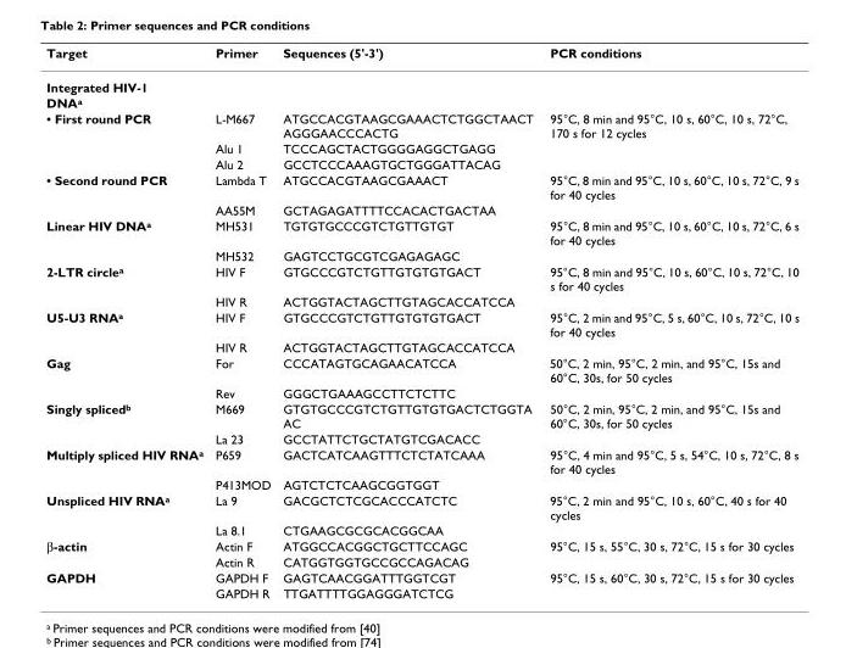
<table><thead><tr><td>Target</td><td>Primer</td><td>Sequences (5&#x27;-3&#x27;)</td><td>PCR conditions</td></tr></thead><tbody><tr><td colspan="4">Integrated HIV-1</td></tr><tr><td colspan="4">DNA<sup>a</sup></td></tr><tr><td rowspan="3">• First round PCR</td><td>L-M667</td><td>ATGCCACGTAAGCGAAACTCTGGCTAACT AGGGAACCCACTG</td><td>95°C, 8 min and 95°C, 10 s, 60°C, 10 s, 72°C, 170 s for 12 cycles</td></tr><tr><td>Alu 1</td><td>TCCCAGCTACTGGGGAGGCTGAGG</td><td></td></tr><tr><td>Alu 2</td><td>GCCTCCCAAAGTGCTGGGATTACAG</td><td></td></tr><tr><td rowspan="2">• Second round PCR</td><td>Lambda T</td><td>ATGCCACGTAAGCGAAACT</td><td>95°C, 8 min and 95°C, 10 s, 60°C, 10 s, 72°C, 9 s for 40 cycles</td></tr><tr><td>AA55M</td><td>GCTAGAGATTTTCCACACTGACTAA</td><td></td></tr><tr><td rowspan="2">Linear HIV DNA<sup>a</sup></td><td>MH531</td><td>TGTGTGCCCGTCTGTTGTGT</td><td>95°C, 8 min and 95°C, 10 s, 60°C, 10 s, 72°C, 6 s for 40 cycles</td></tr><tr><td>MH532</td><td>GAGTCCTGCGTCGAGAGAGC</td><td></td></tr><tr><td rowspan="2">2-LTR circle<sup>a</sup></td><td>HIV F</td><td>GTGCCCGTCTGTTGTGTGTGACT</td><td>95°C, 8 min and 95°C, 10 s, 60°C, 10 s, 72°C, 10 s for 40 cycles</td></tr><tr><td>HIV R</td><td>ACTGGTACTAGCTTGTAGCACCATCCA</td><td></td></tr><tr><td rowspan="2">U5-U3 RNA<sup>a</sup></td><td>HIV F</td><td>GTGCCCGTCTGTTGTGTGTGACT</td><td>95°C, 2 min and 95°C, 5 s, 60°C, 10 s, 72°C, 10 s for 40 cycles</td></tr><tr><td>HIV R</td><td>ACTGGTACTAGCTTGTAGCACCATCCA</td><td></td></tr><tr><td rowspan="2">Gag</td><td>For</td><td>CCCATAGTGCAGAACATCCA</td><td>50°C, 2 min, 95°C, 2 min, and 95°C, 15s and 60°C, 30s, for 50 cycles</td></tr><tr><td>Rev</td><td>GGGCTGAAAGCCTTCTCTTC</td><td></td></tr><tr><td rowspan="2">Singly spliced<sup>b</sup></td><td>M669</td><td>GTGTGCCCGTCTGTTGTGTGACTCTGGTA AC</td><td>50°C, 2 min, 95°C, 2 min, and 95°C, 15s and 60°C, 30s, for 50 cycles</td></tr><tr><td>La 23</td><td>GCCTATTCTGCTATGTCGACACC</td><td></td></tr><tr><td rowspan="2">Multiply spliced HIV RNA<sup>a</sup></td><td>P659</td><td>GACTCATCAAGTTTCTCTATCAAA</td><td>95°C, 4 min and 95°C, 5 s, 54°C, 10 s, 72°C, 8 s for 40 cycles</td></tr><tr><td>P413MOD</td><td>AGTCTCTCAAGCGGTGGT</td><td></td></tr><tr><td rowspan="2">Unspliced HIV RNA<sup>a</sup></td><td>La 9</td><td>GACGCTCTCGCACCCATCTC</td><td>95°C, 2 min and 95°C, 10 s, 60°C, 40 s for 40 cycles</td></tr><tr><td>La 8.1</td><td>CTGAAGCGCGCACGGCAA</td><td></td></tr><tr><td rowspan="2">β-actin</td><td>Actin F</td><td>ATGGCCACGGCTGCTTCCAGC</td><td>95°C, 15 s, 55°C, 30 s, 72°C, 15 s for 30 cycles</td></tr><tr><td>Actin R</td><td>CATGGTGGTGCCGCCAGACAG</td><td></td></tr><tr><td rowspan="2">GAPDH</td><td>GAPDH F</td><td>GAGTCAACGGATTTGGTCGT</td><td>95°C, 15 s, 60°C, 30 s, 72°C, 15 s for 30 cycles</td></tr><tr><td>GAPDH R</td><td>TTGATTTTGGAGGGATCTCG</td><td></td></tr></tbody></table>